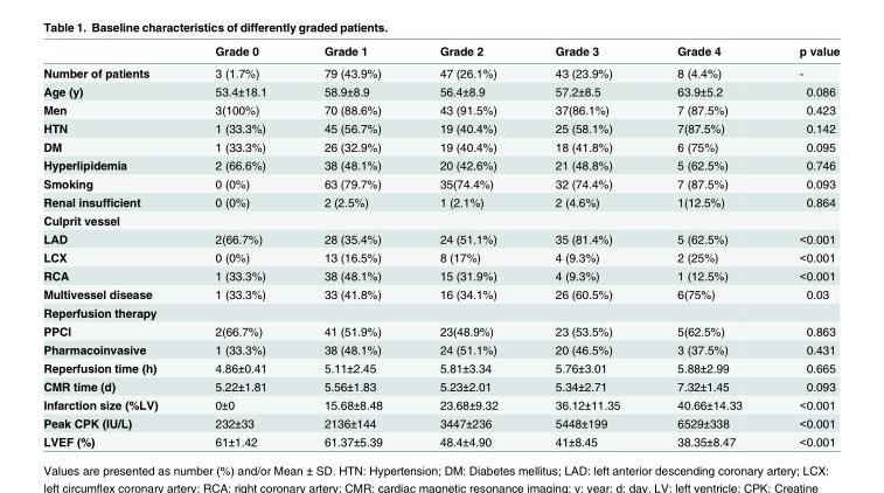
<table><thead><tr><td></td><td>Grade 0</td><td>Grade 1</td><td>Grade 2</td><td>Grade 3</td><td>Grade 4</td><td>p value</td></tr></thead><tbody><tr><td>Number of patients</td><td>3 (1.7%)</td><td>79 (43.9%)</td><td>47 (26.1%)</td><td>43 (23.9%)</td><td>8 (4.4%)</td><td>-</td></tr><tr><td>Age (y)</td><td>53.4±18.1</td><td>58.9±8.9</td><td>56.4±8.9</td><td>57.2±8.5</td><td>63.9±5.2</td><td>0.086</td></tr><tr><td>Men</td><td>3(100%)</td><td>70 (88.6%)</td><td>43 (91.5%)</td><td>37(86.1%)</td><td>7 (87.5%)</td><td>0.423</td></tr><tr><td>HTN</td><td>1 (33.3%)</td><td>45 (56.7%)</td><td>19 (40.4%)</td><td>25 (58.1%)</td><td>7(87.5%)</td><td>0.142</td></tr><tr><td>DM</td><td>1 (33.3%)</td><td>26 (32.9%)</td><td>19 (40.4%)</td><td>18 (41.8%)</td><td>6 (75%)</td><td>0.095</td></tr><tr><td>Hyperlipidemia</td><td>2 (66.6%)</td><td>38 (48.1%)</td><td>20 (42.6%)</td><td>21 (48.8%)</td><td>5 (62.5%)</td><td>0.746</td></tr><tr><td>Smoking</td><td>0 (0%)</td><td>63 (79.7%)</td><td>35(74.4%)</td><td>32 (74.4%)</td><td>7 (87.5%)</td><td>0.093</td></tr><tr><td>Renal insufficient</td><td>0 (0%)</td><td>2 (2.5%)</td><td>1 (2.1%)</td><td>2 (4.6%)</td><td>1(12.5%)</td><td>0.864</td></tr><tr><td colspan="7">Culprit vessel</td></tr><tr><td>LAD</td><td>2(66.7%)</td><td>28 (35.4%)</td><td>24 (51.1%)</td><td>35 (81.4%)</td><td>5 (62.5%)</td><td>&lt;0.001</td></tr><tr><td>LCX</td><td>0 (0%)</td><td>13 (16.5%)</td><td>8 (17%)</td><td>4 (9.3%)</td><td>2 (25%)</td><td>&lt;0.001</td></tr><tr><td>RCA</td><td>1 (33.3%)</td><td>38 (48.1%)</td><td>15 (31.9%)</td><td>4 (9.3%)</td><td>1 (12.5%)</td><td>&lt;0.001</td></tr><tr><td>Multivessel disease</td><td>1 (33.3%)</td><td>33 (41.8%)</td><td>16 (34.1%)</td><td>26 (60.5%)</td><td>6(75%)</td><td>0.03</td></tr><tr><td colspan="7">Reperfusion therapy</td></tr><tr><td>PPCI</td><td>2(66.7%)</td><td>41 (51.9%)</td><td>23(48.9%)</td><td>23 (53.5%)</td><td>5(62.5%)</td><td>0.863</td></tr><tr><td>Pharmacoinvasive</td><td>1 (33.3%)</td><td>38 (48.1%)</td><td>24 (51.1%)</td><td>20 (46.5%)</td><td>3 (37.5%)</td><td>0.431</td></tr><tr><td>Reperfusion time (h)</td><td>4.86±0.41</td><td>5.11±2.45</td><td>5.81±3.34</td><td>5.76±3.01</td><td>5.88±2.99</td><td>0.665</td></tr><tr><td>CMR time (d)</td><td>5.22±1.81</td><td>5.56±1.83</td><td>5.23±2.01</td><td>5.34±2.71</td><td>7.32±1.45</td><td>0.093</td></tr><tr><td>Infarction size (%LV)</td><td>0±0</td><td>15.68±8.48</td><td>23.68±9.32</td><td>36.12±11.35</td><td>40.66±14.33</td><td>&lt;0.001</td></tr><tr><td>Peak CPK (IU/L)</td><td>232±33</td><td>2136±144</td><td>3447±236</td><td>5448±199</td><td>6529±338</td><td>&lt;0.001</td></tr><tr><td>LVEF (%)</td><td>61±1.42</td><td>61.37±5.39</td><td>48.4±4.90</td><td>41±8.45</td><td>38.35±8.47</td><td>&lt;0.001</td></tr></tbody></table>